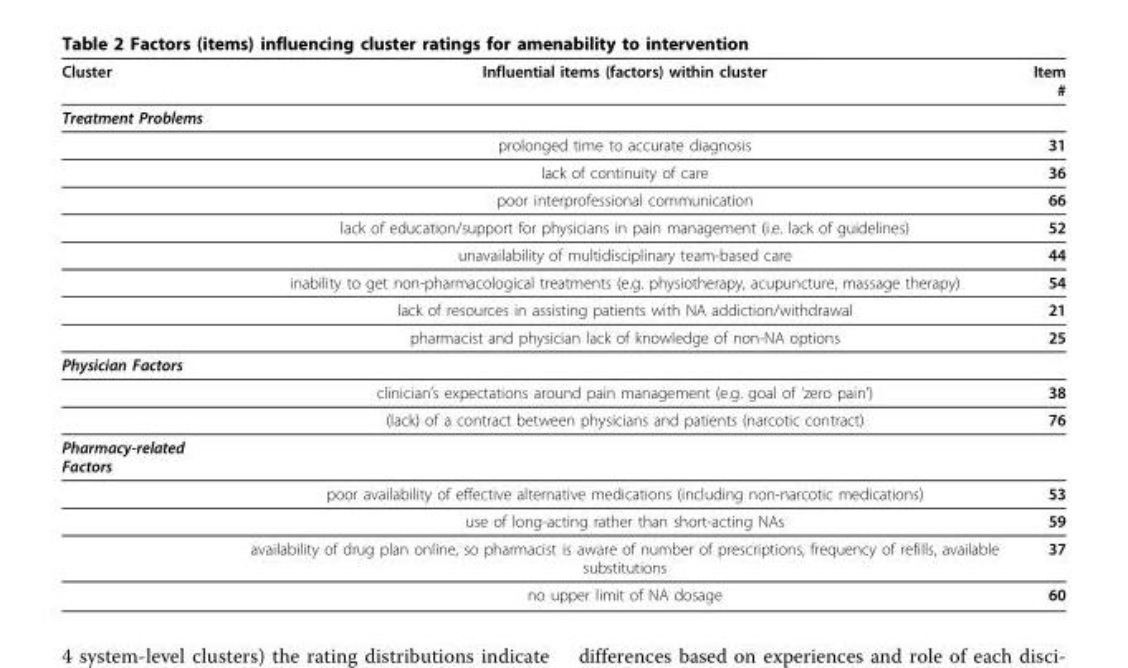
<table><thead><tr><td>Cluster</td><td>Influential items (factors) within cluster</td><td>Item #</td></tr></thead><tbody><tr><td colspan="3">Treatment Problems</td></tr><tr><td></td><td>prolonged time to accurate diagnosis</td><td>31</td></tr><tr><td></td><td>lack of continuity of care</td><td>36</td></tr><tr><td></td><td>poor interprofessional communication</td><td>66</td></tr><tr><td></td><td>lack of education/support for physicians in pain management (i.e. lack of guidelines)</td><td>52</td></tr><tr><td></td><td>unavailability of multidisciplinary team-based care</td><td>44</td></tr><tr><td></td><td>inability to get non-pharmacological treatments (e.g. physiotherapy, acupuncture, massage therapy)</td><td>54</td></tr><tr><td></td><td>lack of resources in assisting patients with NA addiction/withdrawal</td><td>21</td></tr><tr><td></td><td>pharmacist and physician lack of knowledge of non-NA options</td><td>25</td></tr><tr><td colspan="3">Physician Factors</td></tr><tr><td></td><td>clinician’s expectations around pain management (e.g. goal of ‘zero pain’)</td><td>38</td></tr><tr><td></td><td>(lack) of a contract between physicians and patients (narcotic contract)</td><td>76</td></tr><tr><td colspan="3">Pharmacy-related Factors</td></tr><tr><td></td><td>poor availability of effective alternative medications (including non-narcotic medications)</td><td>53</td></tr><tr><td></td><td>use of long-acting rather than short-acting NAs</td><td>59</td></tr><tr><td></td><td>availability of drug plan online, so pharmacist is aware of number of prescriptions, frequency of refills, available substitutions</td><td>37</td></tr><tr><td></td><td>no upper limit of NA dosage</td><td>60</td></tr></tbody></table>